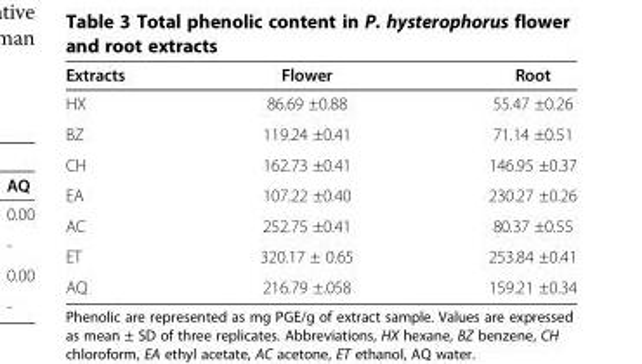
<table><thead><tr><td>Extracts</td><td>Flower</td><td>Root</td></tr></thead><tbody><tr><td>HX</td><td>86.69 ±0.88</td><td>55.47 ±0.26</td></tr><tr><td>BZ</td><td>119.24 ±0.41</td><td>71.14 ±0.51</td></tr><tr><td>CH</td><td>162.73 ±0.41</td><td>146.95 ±0.37</td></tr><tr><td>EA</td><td>107.22 ±0.40</td><td>230.27 ±0.26</td></tr><tr><td>AC</td><td>252.75 ±0.41</td><td>80.37 ±0.55</td></tr><tr><td>ET</td><td>320.17 ± 0.65</td><td>253.84 ±0.41</td></tr><tr><td>AQ</td><td>216.79 ±.058</td><td>159.21 ±0.34</td></tr></tbody></table>